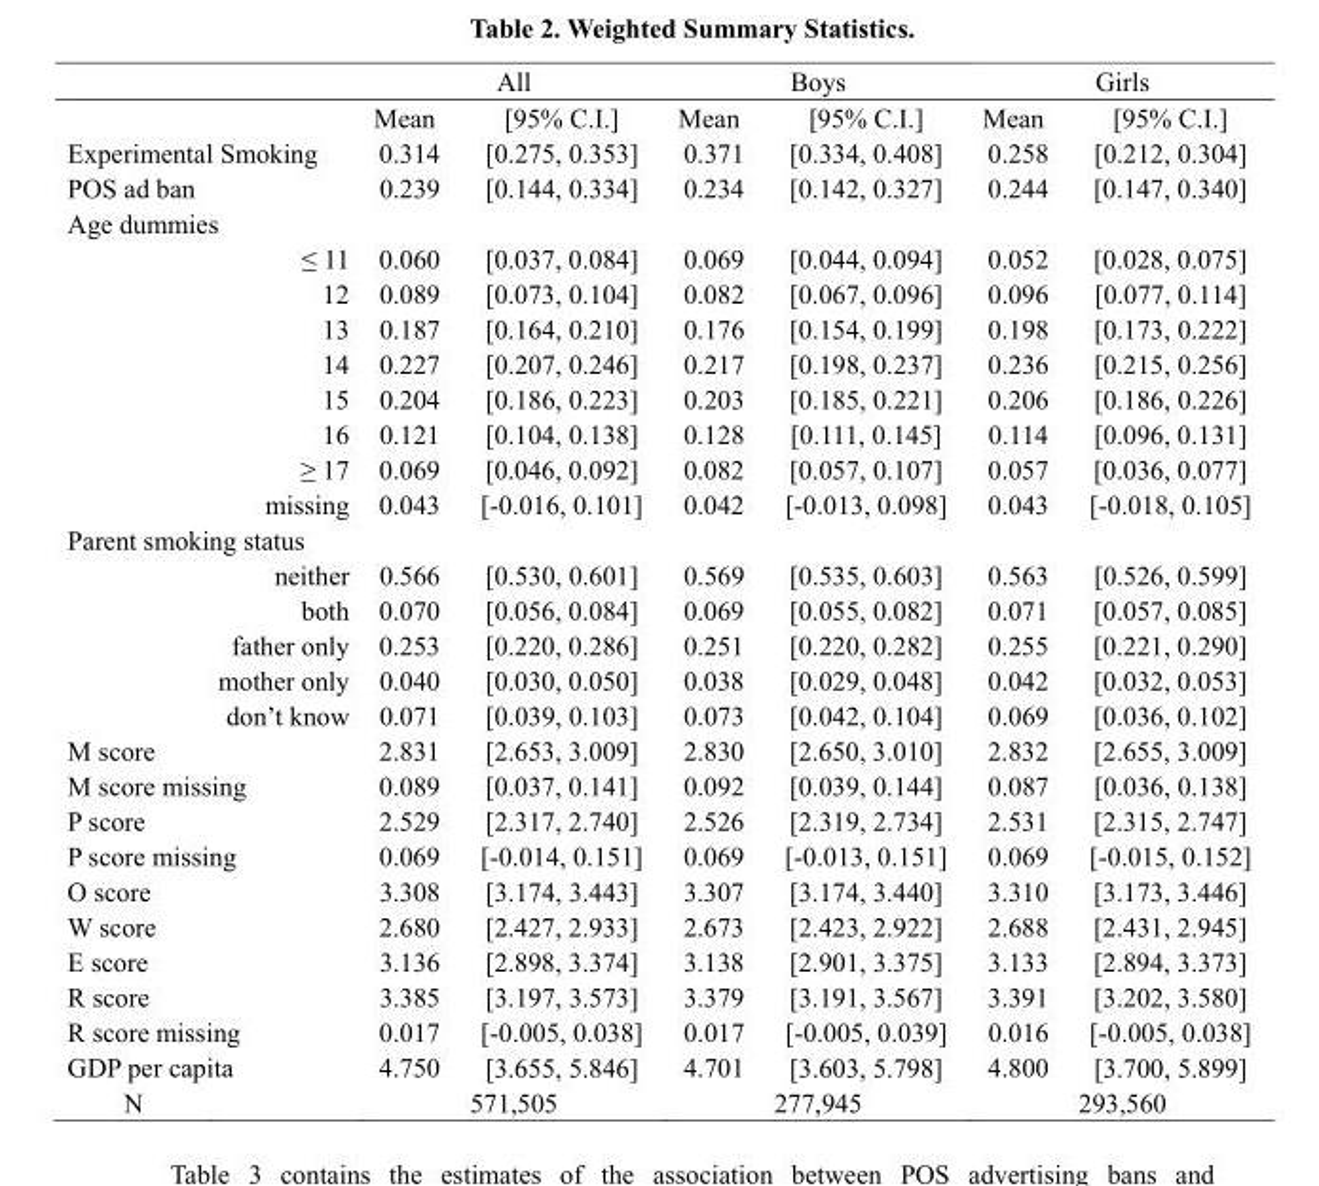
<table><thead><tr><td></td><td></td><td colspan="2">All</td><td colspan="2">Boys</td><td colspan="2">Girls</td></tr><tr><td colspan="2"></td><td>Mean</td><td>[95% C.I.]</td><td>Mean</td><td>[95% C.I.]</td><td>Mean</td><td>[95% C.I.]</td></tr></thead><tbody><tr><td colspan="2">Experimental Smoking</td><td>0.314</td><td>[0.275, 0.353]</td><td>0.371</td><td>[0.334, 0.408]</td><td>0.258</td><td>[0.212, 0.304]</td></tr><tr><td colspan="2">POS ad ban</td><td>0.239</td><td>[0.144, 0.334]</td><td>0.234</td><td>[0.142, 0.327]</td><td>0.244</td><td>[0.147, 0.340]</td></tr><tr><td colspan="8">Age dummies</td></tr><tr><td></td><td>≤ 11</td><td>0.060</td><td>[0.037, 0.084]</td><td>0.069</td><td>[0.044, 0.094]</td><td>0.052</td><td>[0.028, 0.075]</td></tr><tr><td></td><td>12</td><td>0.089</td><td>[0.073, 0.104]</td><td>0.082</td><td>[0.067, 0.096]</td><td>0.096</td><td>[0.077, 0.114]</td></tr><tr><td></td><td>13</td><td>0.187</td><td>[0.164, 0.210]</td><td>0.176</td><td>[0.154, 0.199]</td><td>0.198</td><td>[0.173, 0.222]</td></tr><tr><td></td><td>14</td><td>0.227</td><td>[0.207, 0.246]</td><td>0.217</td><td>[0.198, 0.237]</td><td>0.236</td><td>[0.215, 0.256]</td></tr><tr><td></td><td>15</td><td>0.204</td><td>[0.186, 0.223]</td><td>0.203</td><td>[0.185, 0.221]</td><td>0.206</td><td>[0.186, 0.226]</td></tr><tr><td></td><td>16</td><td>0.121</td><td>[0.104, 0.138]</td><td>0.128</td><td>[0.111, 0.145]</td><td>0.114</td><td>[0.096, 0.131]</td></tr><tr><td></td><td>≥ 17</td><td>0.069</td><td>[0.046, 0.092]</td><td>0.082</td><td>[0.057, 0.107]</td><td>0.057</td><td>[0.036, 0.077]</td></tr><tr><td></td><td>missing</td><td>0.043</td><td>[-0.016, 0.101]</td><td>0.042</td><td>[-0.013, 0.098]</td><td>0.043</td><td>[-0.018, 0.105]</td></tr><tr><td colspan="8">Parent smoking status</td></tr><tr><td colspan="2">neither</td><td>0.566</td><td>[0.530, 0.601]</td><td>0.569</td><td>[0.535, 0.603]</td><td>0.563</td><td>[0.526, 0.599]</td></tr><tr><td colspan="2">both</td><td>0.070</td><td>[0.056, 0.084]</td><td>0.069</td><td>[0.055, 0.082]</td><td>0.071</td><td>[0.057, 0.085]</td></tr><tr><td colspan="2">father only</td><td>0.253</td><td>[0.220, 0.286]</td><td>0.251</td><td>[0.220, 0.282]</td><td>0.255</td><td>[0.221, 0.290]</td></tr><tr><td colspan="2">mother only</td><td>0.040</td><td>[0.030, 0.050]</td><td>0.038</td><td>[0.029, 0.048]</td><td>0.042</td><td>[0.032, 0.053]</td></tr><tr><td colspan="2">don’t know</td><td>0.071</td><td>[0.039, 0.103]</td><td>0.073</td><td>[0.042, 0.104]</td><td>0.069</td><td>[0.036, 0.102]</td></tr><tr><td>M score</td><td></td><td>2.831</td><td>[2.653, 3.009]</td><td>2.830</td><td>[2.650, 3.010]</td><td>2.832</td><td>[2.655, 3.009]</td></tr><tr><td colspan="2">M score missing</td><td>0.089</td><td>[0.037, 0.141]</td><td>0.092</td><td>[0.039, 0.144]</td><td>0.087</td><td>[0.036, 0.138]</td></tr><tr><td>P score</td><td></td><td>2.529</td><td>[2.317, 2.740]</td><td>2.526</td><td>[2.319, 2.734]</td><td>2.531</td><td>[2.315, 2.747]</td></tr><tr><td colspan="2">P score missing</td><td>0.069</td><td>[-0.014, 0.151]</td><td>0.069</td><td>[-0.013, 0.151]</td><td>0.069</td><td>[-0.015, 0.152]</td></tr><tr><td>O score</td><td></td><td>3.308</td><td>[3.174, 3.443]</td><td>3.307</td><td>[3.174, 3.440]</td><td>3.310</td><td>[3.173, 3.446]</td></tr><tr><td>W score</td><td></td><td>2.680</td><td>[2.427, 2.933]</td><td>2.673</td><td>[2.423, 2.922]</td><td>2.688</td><td>[2.431, 2.945]</td></tr><tr><td>E score</td><td></td><td>3.136</td><td>[2.898, 3.374]</td><td>3.138</td><td>[2.901, 3.375]</td><td>3.133</td><td>[2.894, 3.373]</td></tr><tr><td>R score</td><td></td><td>3.385</td><td>[3.197, 3.573]</td><td>3.379</td><td>[3.191, 3.567]</td><td>3.391</td><td>[3.202, 3.580]</td></tr><tr><td colspan="2">R score missing</td><td>0.017</td><td>[-0.005, 0.038]</td><td>0.017</td><td>[-0.005, 0.039]</td><td>0.016</td><td>[-0.005, 0.038]</td></tr><tr><td colspan="2">GDP per capita</td><td>4.750</td><td>[3.655, 5.846]</td><td>4.701</td><td>[3.603, 5.798]</td><td>4.800</td><td>[3.700, 5.899]</td></tr><tr><td>N</td><td></td><td colspan="2">571,505</td><td colspan="2">277,945</td><td colspan="2">293,560</td></tr></tbody></table>